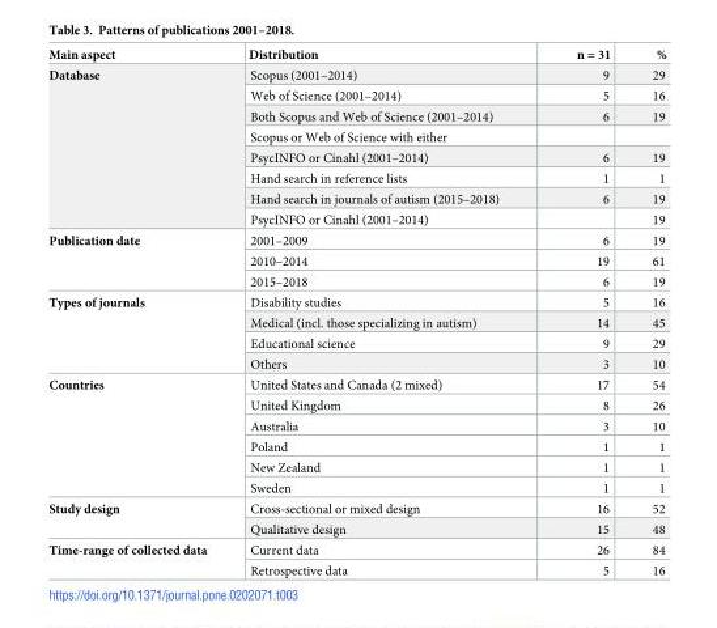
<table><thead><tr><td>Main aspect</td><td>Distribution</td><td>n = 31</td><td>%</td></tr></thead><tbody><tr><td rowspan="8">Database</td><td>Scopus (2001–2014)</td><td>9</td><td>29</td></tr><tr><td>Web of Science (2001–2014)</td><td>5</td><td>16</td></tr><tr><td>Both Scopus and Web of Science (2001–2014)</td><td>6</td><td>19</td></tr><tr><td>Scopus or Web of Science with either</td><td></td><td></td></tr><tr><td>PsycINFO or Cinahl (2001–2014)</td><td>6</td><td>19</td></tr><tr><td>Hand search in reference lists</td><td>1</td><td>1</td></tr><tr><td>Hand search in journals of autism (2015–2018)</td><td>6</td><td>19</td></tr><tr><td>PsycINFO or Cinahl (2001–2014)</td><td></td><td>19</td></tr><tr><td rowspan="3">Publication date</td><td>2001–2009</td><td>6</td><td>19</td></tr><tr><td>2010–2014</td><td>19</td><td>61</td></tr><tr><td>2015–2018</td><td>6</td><td>19</td></tr><tr><td rowspan="4">Types of journals</td><td>Disability studies</td><td>5</td><td>16</td></tr><tr><td>Medical (incl. those specializing in autism)</td><td>14</td><td>45</td></tr><tr><td>Educational science</td><td>9</td><td>29</td></tr><tr><td>Others</td><td>3</td><td>10</td></tr><tr><td rowspan="6">Countries</td><td>United States and Canada (2 mixed)</td><td>17</td><td>54</td></tr><tr><td>United Kingdom</td><td>8</td><td>26</td></tr><tr><td>Australia</td><td>3</td><td>10</td></tr><tr><td>Poland</td><td>1</td><td>1</td></tr><tr><td>New Zealand</td><td>1</td><td>1</td></tr><tr><td>Sweden</td><td>1</td><td>1</td></tr><tr><td rowspan="2">Study design</td><td>Cross-sectional or mixed design</td><td>16</td><td>52</td></tr><tr><td>Qualitative design</td><td>15</td><td>48</td></tr><tr><td rowspan="2">Time-range of collected data</td><td>Current data</td><td>26</td><td>84</td></tr><tr><td>Retrospective data</td><td>5</td><td>16</td></tr></tbody></table>